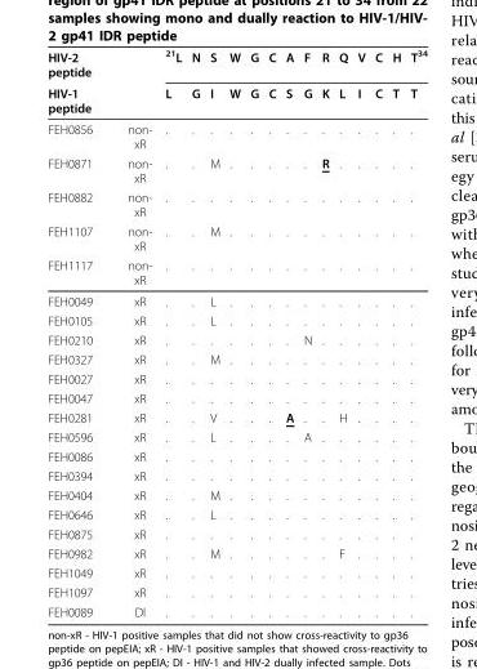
<table><thead><tr><td rowspan="2">HIV-2 peptide HIV-1 peptide</td><td rowspan="2"></td><td rowspan="2">21L L</td><td rowspan="2">N G</td><td rowspan="2">S I</td><td rowspan="2">W W</td><td rowspan="2">G G</td><td rowspan="2">C C</td><td rowspan="2">A S</td><td rowspan="2">F G</td><td rowspan="2">R K</td><td rowspan="2">Q L</td><td rowspan="2">V I</td><td rowspan="2">C C</td><td rowspan="2">H T</td><td rowspan="2">T34 T</td></tr><tr></tr></thead><tbody><tr><td>FEH0856</td><td>non- xR</td><td>.</td><td>.</td><td>.</td><td>.</td><td>.</td><td>.</td><td>.</td><td>.</td><td>.</td><td>.</td><td>.</td><td>.</td><td>.</td><td>.</td></tr><tr><td>FEH0871</td><td>non- xR</td><td>.</td><td>.</td><td>M</td><td>.</td><td>.</td><td>.</td><td>.</td><td>.</td><td>R</td><td>.</td><td>.</td><td>.</td><td>.</td><td>.</td></tr><tr><td>FEH0882</td><td>non- xR</td><td>.</td><td>.</td><td>.</td><td>.</td><td>.</td><td>.</td><td>.</td><td>.</td><td>.</td><td>.</td><td>.</td><td>.</td><td>.</td><td>.</td></tr><tr><td>FEH1107</td><td>non- xR</td><td>.</td><td>.</td><td>M</td><td>.</td><td>.</td><td>.</td><td>.</td><td>.</td><td>.</td><td>.</td><td>.</td><td>.</td><td>.</td><td>.</td></tr><tr><td>FEH1117</td><td>non- xR</td><td>.</td><td>.</td><td>.</td><td>.</td><td>.</td><td>.</td><td>.</td><td>.</td><td>.</td><td>.</td><td>.</td><td>.</td><td>.</td><td>.</td></tr><tr><td>FEH0049</td><td>xR</td><td>.</td><td>.</td><td>L</td><td>.</td><td>.</td><td>.</td><td>.</td><td>.</td><td>.</td><td>.</td><td>.</td><td>.</td><td>.</td><td>.</td></tr><tr><td>FEH0105</td><td>xR</td><td>.</td><td>.</td><td>L</td><td>.</td><td>.</td><td>.</td><td>.</td><td>.</td><td>.</td><td>.</td><td>.</td><td>.</td><td>.</td><td>.</td></tr><tr><td>FEH0210</td><td>xR</td><td>.</td><td>.</td><td>.</td><td>.</td><td>.</td><td>.</td><td>.</td><td>N</td><td>.</td><td>.</td><td>.</td><td>.</td><td>.</td><td>.</td></tr><tr><td>FEH0327</td><td>xR</td><td>.</td><td>.</td><td>M</td><td>.</td><td>.</td><td>.</td><td>.</td><td>.</td><td>.</td><td>.</td><td>.</td><td>.</td><td>.</td><td>.</td></tr><tr><td>FEH0027</td><td>xR</td><td>.</td><td>.</td><td>.</td><td>.</td><td>.</td><td>.</td><td>.</td><td>.</td><td>.</td><td>.</td><td>.</td><td>.</td><td>.</td><td>.</td></tr><tr><td>FEH0047</td><td>xR</td><td>.</td><td>.</td><td>.</td><td>.</td><td>.</td><td>.</td><td>.</td><td>.</td><td>.</td><td>.</td><td>.</td><td>.</td><td>.</td><td>.</td></tr><tr><td>FEH0281</td><td>xR</td><td>.</td><td>.</td><td>V</td><td>.</td><td>.</td><td>.</td><td>A</td><td>.</td><td>.</td><td>H</td><td>.</td><td>.</td><td>.</td><td>.</td></tr><tr><td>FEH0596</td><td>xR</td><td>.</td><td>.</td><td>L</td><td>.</td><td>.</td><td>.</td><td>.</td><td>A</td><td>.</td><td>.</td><td>.</td><td>.</td><td>.</td><td>.</td></tr><tr><td>FEH0086</td><td>xR</td><td>.</td><td>.</td><td>.</td><td>.</td><td>.</td><td>.</td><td>.</td><td>.</td><td>.</td><td>.</td><td>.</td><td>.</td><td>.</td><td>.</td></tr><tr><td>FEH0394</td><td>xR</td><td>.</td><td>.</td><td>.</td><td>.</td><td>.</td><td>.</td><td>.</td><td>.</td><td>.</td><td>.</td><td>.</td><td>.</td><td>.</td><td>.</td></tr><tr><td>FEH0404</td><td>xR</td><td>.</td><td>.</td><td>M</td><td>.</td><td>.</td><td>.</td><td>.</td><td>.</td><td>.</td><td>.</td><td>.</td><td>.</td><td>.</td><td>.</td></tr><tr><td>FEH0646</td><td>xR</td><td>.</td><td>.</td><td>L</td><td>.</td><td>.</td><td>.</td><td>.</td><td>.</td><td>.</td><td>.</td><td>.</td><td>.</td><td>.</td><td>.</td></tr><tr><td>FEH0875</td><td>xR</td><td>.</td><td>.</td><td>.</td><td>.</td><td>.</td><td>.</td><td>.</td><td>.</td><td>.</td><td>.</td><td>.</td><td>.</td><td>.</td><td>.</td></tr><tr><td>FEH0982</td><td>xR</td><td>.</td><td>.</td><td>M</td><td>.</td><td>.</td><td>.</td><td>.</td><td>.</td><td>.</td><td>F</td><td>.</td><td>.</td><td>.</td><td>.</td></tr><tr><td>FEH1049</td><td>xR</td><td>.</td><td>.</td><td>.</td><td>.</td><td>.</td><td>.</td><td>.</td><td>.</td><td>.</td><td>.</td><td>.</td><td>.</td><td>.</td><td>.</td></tr><tr><td>FEH1097</td><td>xR</td><td>.</td><td>.</td><td>.</td><td>.</td><td>.</td><td>.</td><td>.</td><td>.</td><td>.</td><td>.</td><td>.</td><td>.</td><td>.</td><td>.</td></tr><tr><td>FEH0089</td><td>DI</td><td>.</td><td>.</td><td>.</td><td>.</td><td>.</td><td>.</td><td>.</td><td>.</td><td>.</td><td>.</td><td>.</td><td>.</td><td>.</td><td>.</td></tr></tbody></table>